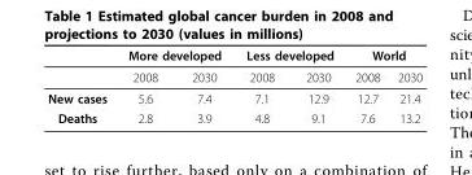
<table><thead><tr><td rowspan="2"></td><td colspan="2">More developed</td><td colspan="2">Less developed</td><td colspan="2">World</td></tr><tr><td>2008</td><td>2030</td><td>2008</td><td>2030</td><td>2008</td><td>2030</td></tr></thead><tbody><tr><td>New cases</td><td>5.6</td><td>7.4</td><td>7.1</td><td>12.9</td><td>12.7</td><td>21.4</td></tr><tr><td>Deaths</td><td>2.8</td><td>3.9</td><td>4.8</td><td>9.1</td><td>7.6</td><td>13.2</td></tr></tbody></table>